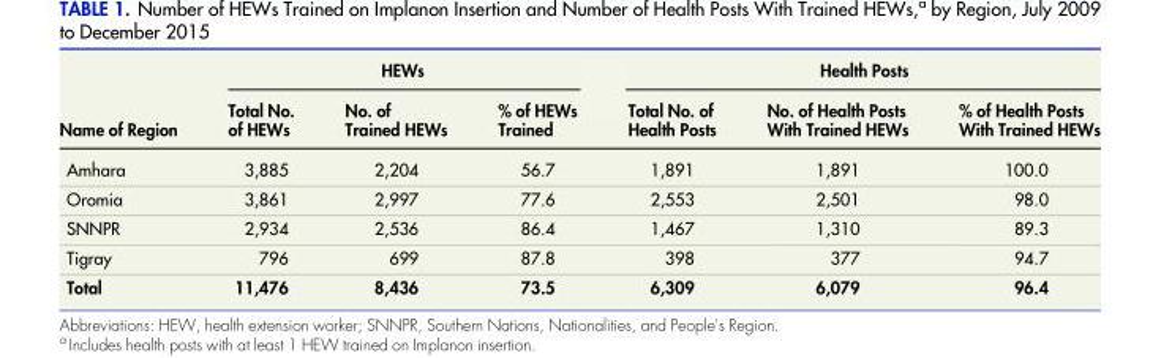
<table><thead><tr><td rowspan="2">Name of Region</td><td colspan="3">HEWs</td><td colspan="3">Health Posts</td></tr><tr><td>Total No. of HEWs</td><td>No. of Trained HEWs</td><td>% of HEWs Trained</td><td>Total No. of Health Posts</td><td>No. of Health Posts With Trained HEWs</td><td>% of Health Posts With Trained HEWs</td></tr></thead><tbody><tr><td>Amhara</td><td>3,885</td><td>2,204</td><td>56.7</td><td>1,891</td><td>1,891</td><td>100.0</td></tr><tr><td>Oromia</td><td>3,861</td><td>2,997</td><td>77.6</td><td>2,553</td><td>2,501</td><td>98.0</td></tr><tr><td>SNNPR</td><td>2,934</td><td>2,536</td><td>86.4</td><td>1,467</td><td>1,310</td><td>89.3</td></tr><tr><td>Tigray</td><td>796</td><td>699</td><td>87.8</td><td>398</td><td>377</td><td>94.7</td></tr><tr><td>Total</td><td>11,476</td><td>8,436</td><td>73.5</td><td>6,309</td><td>6,079</td><td>96.4</td></tr></tbody></table>